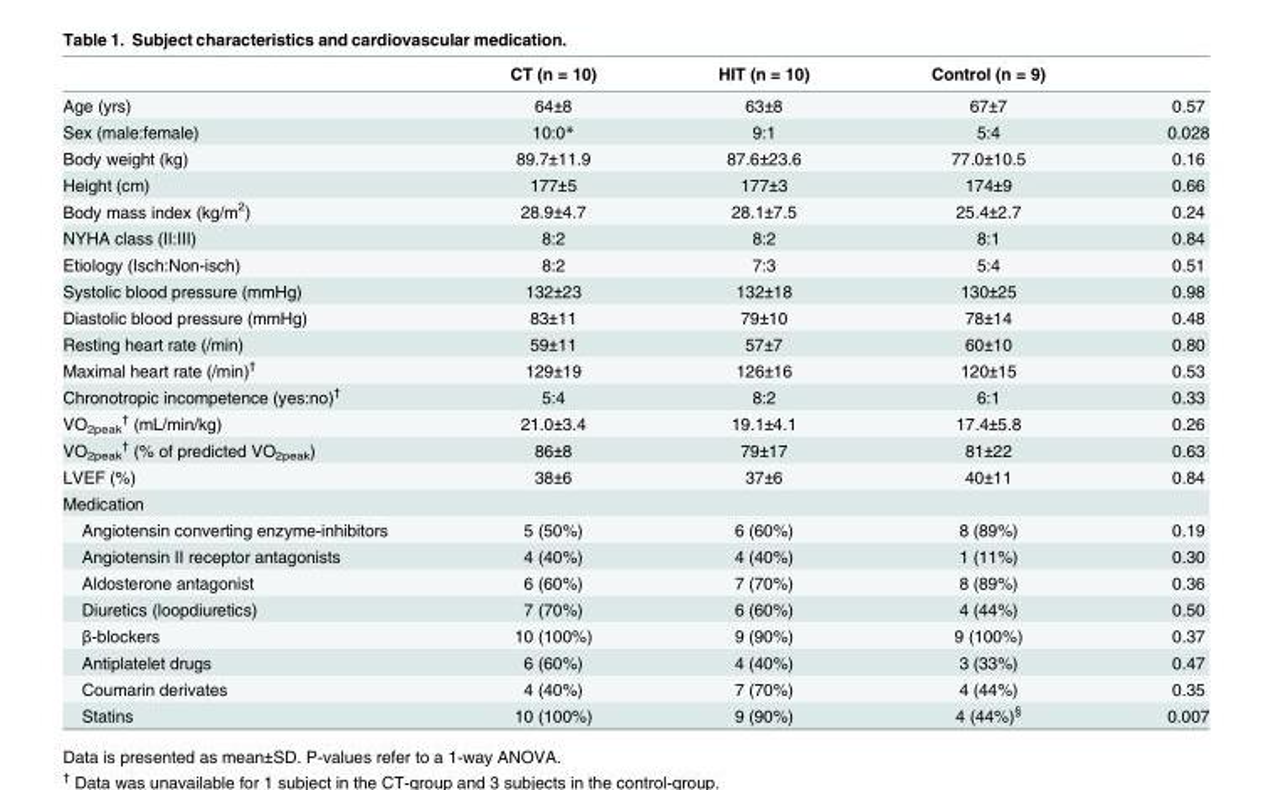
<table><thead><tr><td></td><td>CT (n = 10)</td><td>HIT (n = 10)</td><td>Control (n = 9)</td><td></td></tr></thead><tbody><tr><td>Age (yrs)</td><td>64±8</td><td>63±8</td><td>67±7</td><td>0.57</td></tr><tr><td>Sex (male:female)</td><td>10:0*</td><td>9:1</td><td>5:4</td><td>0.028</td></tr><tr><td>Body weight (kg)</td><td>89.7±11.9</td><td>87.6±23.6</td><td>77.0±10.5</td><td>0.16</td></tr><tr><td>Height (cm)</td><td>177±5</td><td>177±3</td><td>174±9</td><td>0.66</td></tr><tr><td>Body mass index (kg/m<sup>2</sup>)</td><td>28.9±4.7</td><td>28.1±7.5</td><td>25.4±2.7</td><td>0.24</td></tr><tr><td>NYHA class (II:III)</td><td>8:2</td><td>8:2</td><td>8:1</td><td>0.84</td></tr><tr><td>Etiology (Isch:Non-isch)</td><td>8:2</td><td>7:3</td><td>5:4</td><td>0.51</td></tr><tr><td>Systolic blood pressure (mmHg)</td><td>132±23</td><td>132±18</td><td>130±25</td><td>0.98</td></tr><tr><td>Diastolic blood pressure (mmHg)</td><td>83±11</td><td>79±10</td><td>78±14</td><td>0.48</td></tr><tr><td>Resting heart rate (/min)</td><td>59±11</td><td>57±7</td><td>60±10</td><td>0.80</td></tr><tr><td>Maximal heart rate (/min)<sup>†</sup></td><td>129±19</td><td>126±16</td><td>120±15</td><td>0.53</td></tr><tr><td>Chronotropic incompetence (yes:no)<sup>†</sup></td><td>5:4</td><td>8:2</td><td>6:1</td><td>0.33</td></tr><tr><td>VO<sub>2peak</sub> <sup>†</sup> (mL/min/kg)</td><td>21.0±3.4</td><td>19.1±4.1</td><td>17.4±5.8</td><td>0.26</td></tr><tr><td>VO<sub>2peak</sub> <sup>†</sup> (% of predicted VO<sub>2peak</sub>)</td><td>86±8</td><td>79±17</td><td>81±22</td><td>0.63</td></tr><tr><td>LVEF (%)</td><td>38±6</td><td>37±6</td><td>40±11</td><td>0.84</td></tr><tr><td colspan="5">Medication</td></tr><tr><td>Angiotensin converting enzyme-inhibitors</td><td>5 (50%)</td><td>6 (60%)</td><td>8 (89%)</td><td>0.19</td></tr><tr><td>Angiotensin II receptor antagonists</td><td>4 (40%)</td><td>4 (40%)</td><td>1 (11%)</td><td>0.30</td></tr><tr><td>Aldosterone antagonist</td><td>6 (60%)</td><td>7 (70%)</td><td>8 (89%)</td><td>0.36</td></tr><tr><td>Diuretics (loopdiuretics)</td><td>7 (70%)</td><td>6 (60%)</td><td>4 (44%)</td><td>0.50</td></tr><tr><td>β-blockers</td><td>10 (100%)</td><td>9 (90%)</td><td>9 (100%)</td><td>0.37</td></tr><tr><td>Antiplatelet drugs</td><td>6 (60%)</td><td>4 (40%)</td><td>3 (33%)</td><td>0.47</td></tr><tr><td>Coumarin derivates</td><td>4 (40%)</td><td>7 (70%)</td><td>4 (44%)</td><td>0.35</td></tr><tr><td>Statins</td><td>10 (100%)</td><td>9 (90%)</td><td>4 (44%)<sup>§</sup></td><td>0.007</td></tr></tbody></table>